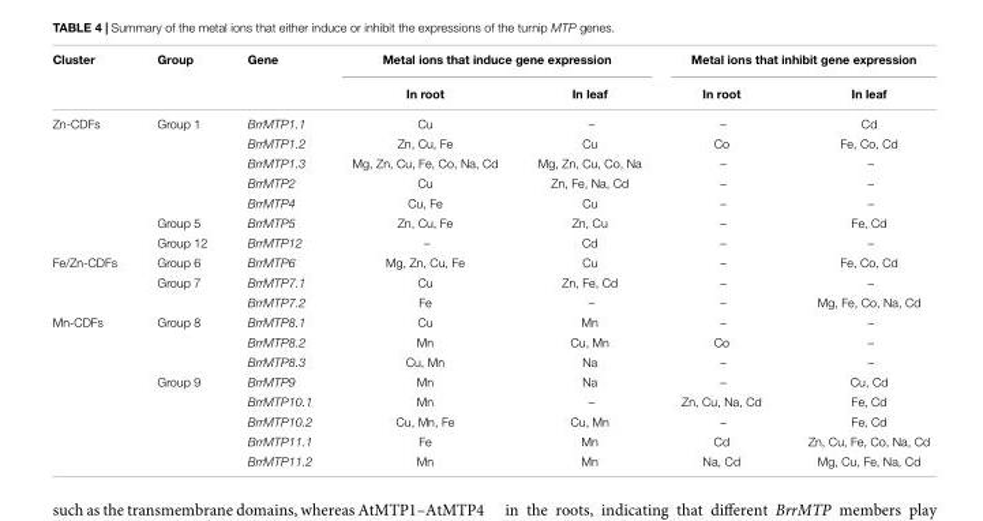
<table><thead><tr><td rowspan="2">Cluster</td><td rowspan="2">Group</td><td rowspan="2">Gene</td><td colspan="2">Metal ions that induce gene expression</td><td colspan="2">Metal ions that inhibit gene expression</td></tr><tr><td>In root</td><td>In leaf</td><td>In root</td><td>In leaf</td></tr></thead><tbody><tr><td rowspan="7">Zn-CDFs</td><td>Group 1</td><td>BrrMTP1.1</td><td>Cu</td><td>–</td><td>–</td><td>Cd</td></tr><tr><td></td><td>BrrMTP1.2</td><td>Zn, Cu, Fe</td><td>Cu</td><td>Co</td><td>Fe, Co, Cd</td></tr><tr><td></td><td>BrrMTP1.3</td><td>Mg, Zn, Cu, Fe, Co, Na, Cd</td><td>Mg, Zn, Cu, Co, Na</td><td>–</td><td>–</td></tr><tr><td></td><td>BrrMTP2</td><td>Cu</td><td>Zn, Fe, Na, Cd</td><td>–</td><td>–</td></tr><tr><td></td><td>BrrMTP4</td><td>Cu, Fe</td><td>Cu</td><td>–</td><td>–</td></tr><tr><td>Group 5</td><td>BrrMTP5</td><td>Zn, Cu, Fe</td><td>Zn, Cu</td><td>–</td><td>Fe, Cd</td></tr><tr><td>Group 12</td><td>BrrMTP12</td><td>–</td><td>Cd</td><td>–</td><td>–</td></tr><tr><td rowspan="3">Fe/Zn-CDFs</td><td>Group 6</td><td>BrrMTP6</td><td>Mg, Zn, Cu, Fe</td><td>Cu</td><td>–</td><td>Fe, Co, Cd</td></tr><tr><td>Group 7</td><td>BrrMTP7.1</td><td>Cu</td><td>Zn, Fe, Cd</td><td>–</td><td>–</td></tr><tr><td></td><td>BrrMTP7.2</td><td>Fe</td><td>–</td><td>–</td><td>Mg, Fe, Co, Na, Cd</td></tr><tr><td rowspan="8">Mn-CDFs</td><td>Group 8</td><td>BrrMTP8.1</td><td>Cu</td><td>Mn</td><td>–</td><td>–</td></tr><tr><td></td><td>BrrMTP8.2</td><td>Mn</td><td>Cu, Mn</td><td>Co</td><td>–</td></tr><tr><td></td><td>BrrMTP8.3</td><td>Cu, Mn</td><td>Na</td><td>–</td><td>–</td></tr><tr><td>Group 9</td><td>BrrMTP9</td><td>Mn</td><td>Na</td><td>–</td><td>Cu, Cd</td></tr><tr><td></td><td>BrrMTP10.1</td><td>Mn</td><td>–</td><td>Zn, Cu, Na, Cd</td><td>Fe, Cd</td></tr><tr><td></td><td>BrrMTP10.2</td><td>Cu, Mn, Fe</td><td>Cu, Mn</td><td>–</td><td>Fe, Cd</td></tr><tr><td></td><td>BrrMTP11.1</td><td>Fe</td><td>Mn</td><td>Cd</td><td>Zn, Cu, Fe, Co, Na, Cd</td></tr><tr><td></td><td>BrrMTP11.2</td><td>Mn</td><td>Mn</td><td>Na, Cd</td><td>Mg, Cu, Fe, Na, Cd</td></tr></tbody></table>